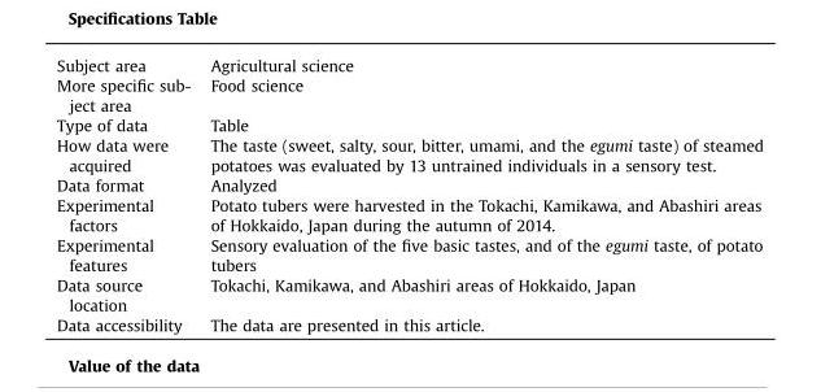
<table><tbody><tr><td>Subject area</td><td>Agricultural science</td></tr><tr><td>More specific sub- ject area</td><td>Food science</td></tr><tr><td>Type of data</td><td>Table</td></tr><tr><td>How data were acquired</td><td>The taste (sweet, salty, sour, bitter, umami, and the egumi taste) of steamed potatoes was evaluated by 13 untrained individuals in a sensory test.</td></tr><tr><td>Data format</td><td>Analyzed</td></tr><tr><td>Experimental factors</td><td>Potato tubers were harvested in the Tokachi, Kamikawa, and Abashiri areas of Hokkaido, Japan during the autumn of 2014.</td></tr><tr><td>Experimental features</td><td>Sensory evaluation of the five basic tastes, and of the egumi taste, of potato tubers</td></tr><tr><td>Data source location</td><td>Tokachi, Kamikawa, and Abashiri areas of Hokkaido, Japan</td></tr><tr><td>Data accessibility</td><td>The data are presented in this article.</td></tr></tbody></table>